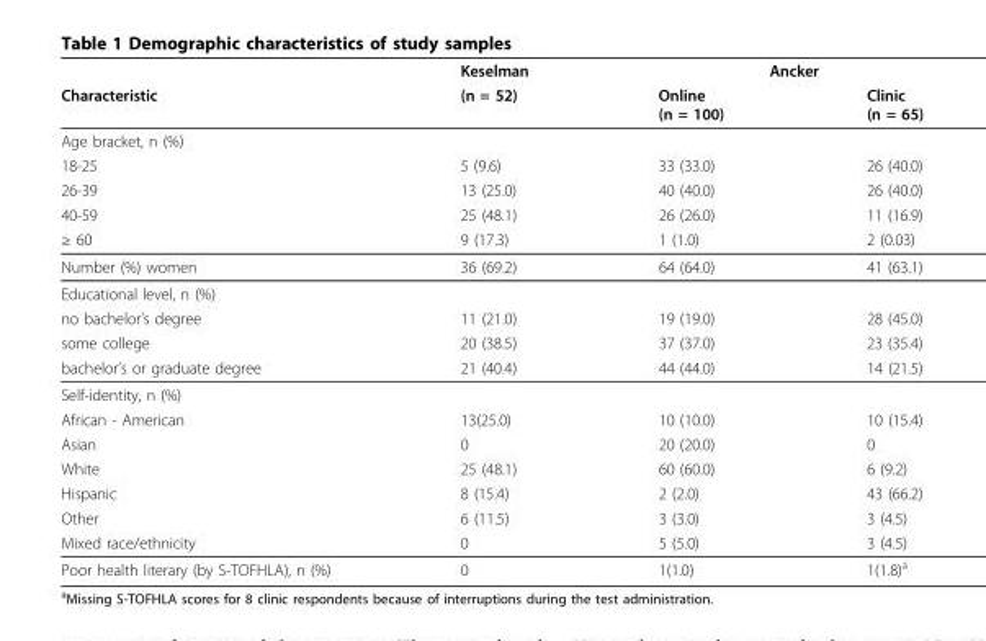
<table><thead><tr><td rowspan="2">Characteristic</td><td rowspan="2">Keselman (n = 52)</td><td colspan="2">Ancker</td></tr><tr><td>Online (n = 100)</td><td>Clinic (n = 65)</td></tr></thead><tbody><tr><td colspan="4">Age bracket, n (%)</td></tr><tr><td>18-25</td><td>5 (9.6)</td><td>33 (33.0)</td><td>26 (40.0)</td></tr><tr><td>26-39</td><td>13 (25.0)</td><td>40 (40.0)</td><td>26 (40.0)</td></tr><tr><td>40-59</td><td>25 (48.1)</td><td>26 (26.0)</td><td>11 (16.9)</td></tr><tr><td>≥ 60</td><td>9 (17.3)</td><td>1 (1.0)</td><td>2 (0.03)</td></tr><tr><td>Number (%) women</td><td>36 (69.2)</td><td>64 (64.0)</td><td>41 (63.1)</td></tr><tr><td colspan="4">Educational level, n (%)</td></tr><tr><td>no bachelor’s degree</td><td>11 (21.0)</td><td>19 (19.0)</td><td>28 (45.0)</td></tr><tr><td>some college</td><td>20 (38.5)</td><td>37 (37.0)</td><td>23 (35.4)</td></tr><tr><td>bachelor’s or graduate degree</td><td>21 (40.4)</td><td>44 (44.0)</td><td>14 (21.5)</td></tr><tr><td colspan="4">Self-identity, n (%)</td></tr><tr><td>African - American</td><td>13(25.0)</td><td>10 (10.0)</td><td>10 (15.4)</td></tr><tr><td>Asian</td><td>0</td><td>20 (20.0)</td><td>0</td></tr><tr><td>White</td><td>25 (48.1)</td><td>60 (60.0)</td><td>6 (9.2)</td></tr><tr><td>Hispanic</td><td>8 (15.4)</td><td>2 (2.0)</td><td>43 (66.2)</td></tr><tr><td>Other</td><td>6 (11.5)</td><td>3 (3.0)</td><td>3 (4.5)</td></tr><tr><td>Mixed race/ethnicity</td><td>0</td><td>5 (5.0)</td><td>3 (4.5)</td></tr><tr><td>Poor health literary (by S-TOFHLA), n (%)</td><td>0</td><td>1(1.0)</td><td>1(1.8)<sup>a</sup></td></tr></tbody></table>